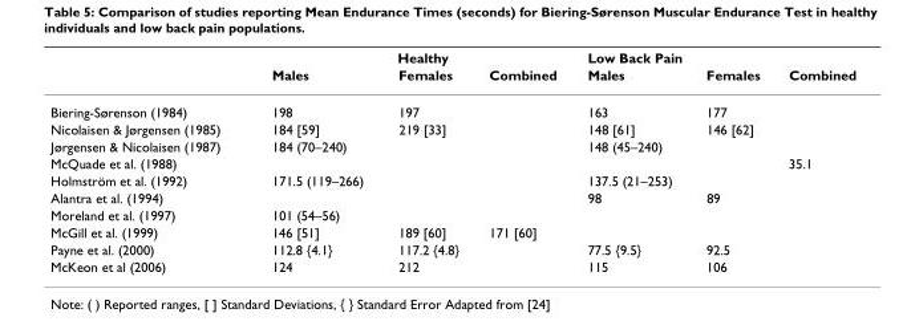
<table><thead><tr><td rowspan="2"></td><td colspan="3">Healthy</td><td colspan="3">Low Back Pain</td></tr><tr><td>Males</td><td>Females</td><td>Combined</td><td>Males</td><td>Females</td><td>Combined</td></tr></thead><tbody><tr><td>Biering-Sørenson (1984)</td><td>198</td><td>197</td><td></td><td>163</td><td>177</td><td></td></tr><tr><td>Nicolaisen &amp; Jørgensen (1985)</td><td>184 [59]</td><td>219 [33]</td><td></td><td>148 [61]</td><td>146 [62]</td><td></td></tr><tr><td>Jørgensen &amp; Nicolaisen (1987)</td><td>184 (70–240)</td><td></td><td></td><td>148 (45–240)</td><td></td><td></td></tr><tr><td>McQuade et al. (1988)</td><td></td><td></td><td></td><td></td><td></td><td>35.1</td></tr><tr><td>Holmström et al. (1992)</td><td>171.5 (119–266)</td><td></td><td></td><td>137.5 (21–253)</td><td></td><td></td></tr><tr><td>Alantra et al. (1994)</td><td></td><td></td><td></td><td>98</td><td>89</td><td></td></tr><tr><td>Moreland et al. (1997)</td><td>101 (54–56)</td><td></td><td></td><td></td><td></td><td></td></tr><tr><td>McGill et al. (1999)</td><td>146 [51]</td><td>189 [60]</td><td>171 [60]</td><td></td><td></td><td></td></tr><tr><td>Payne et al. (2000)</td><td>112.8 {4.1}</td><td>117.2 {4.8}</td><td></td><td>77.5 {9.5}</td><td>92.5</td><td></td></tr><tr><td>McKeon et al (2006)</td><td>124</td><td>212</td><td></td><td>115</td><td>106</td><td></td></tr></tbody></table>